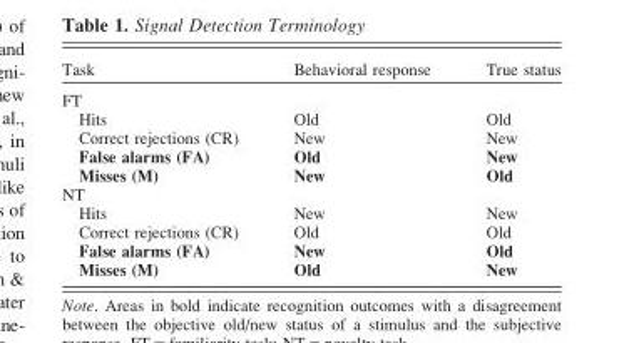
<table><thead><tr><td>Task</td><td>Behavioral response</td><td>True status</td></tr></thead><tbody><tr><td colspan="3">FT</td></tr><tr><td>Hits</td><td>Old</td><td>Old</td></tr><tr><td>Correct rejections (CR)</td><td>New</td><td>New</td></tr><tr><td>False alarms (FA)</td><td>Old</td><td>New</td></tr><tr><td>Misses (M)</td><td>New</td><td>Old</td></tr><tr><td colspan="3">NT</td></tr><tr><td>Hits</td><td>New</td><td>New</td></tr><tr><td>Correct rejections (CR)</td><td>Old</td><td>Old</td></tr><tr><td>False alarms (FA)</td><td>New</td><td>Old</td></tr><tr><td>Misses (M)</td><td>Old</td><td>New</td></tr></tbody></table>